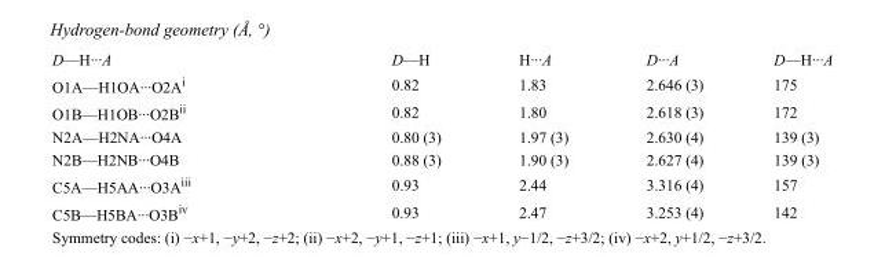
<table><tbody><tr><td>D—H···A</td><td>D—H</td><td>H···A</td><td>D···A</td><td>D—H···A</td></tr><tr><td>O1A—H1OA···O2A<sup>i</sup></td><td>0.82</td><td>1.83</td><td>2.646 (3)</td><td>175</td></tr><tr><td>O1B—H1OB···O2B<sup>ii</sup></td><td>0.82</td><td>1.80</td><td>2.618 (3)</td><td>172</td></tr><tr><td>N2A—H2NA···O4A</td><td>0.80 (3)</td><td>1.97 (3)</td><td>2.630 (4)</td><td>139 (3)</td></tr><tr><td>N2B—H2NB···O4B</td><td>0.88 (3)</td><td>1.90 (3)</td><td>2.627 (4)</td><td>139 (3)</td></tr><tr><td>C5A—H5AA···O3A<sup>iii</sup></td><td>0.93</td><td>2.44</td><td>3.316 (4)</td><td>157</td></tr><tr><td>C5B—H5BA···O3B<sup>iv</sup></td><td>0.93</td><td>2.47</td><td>3.253 (4)</td><td>142</td></tr></tbody></table>